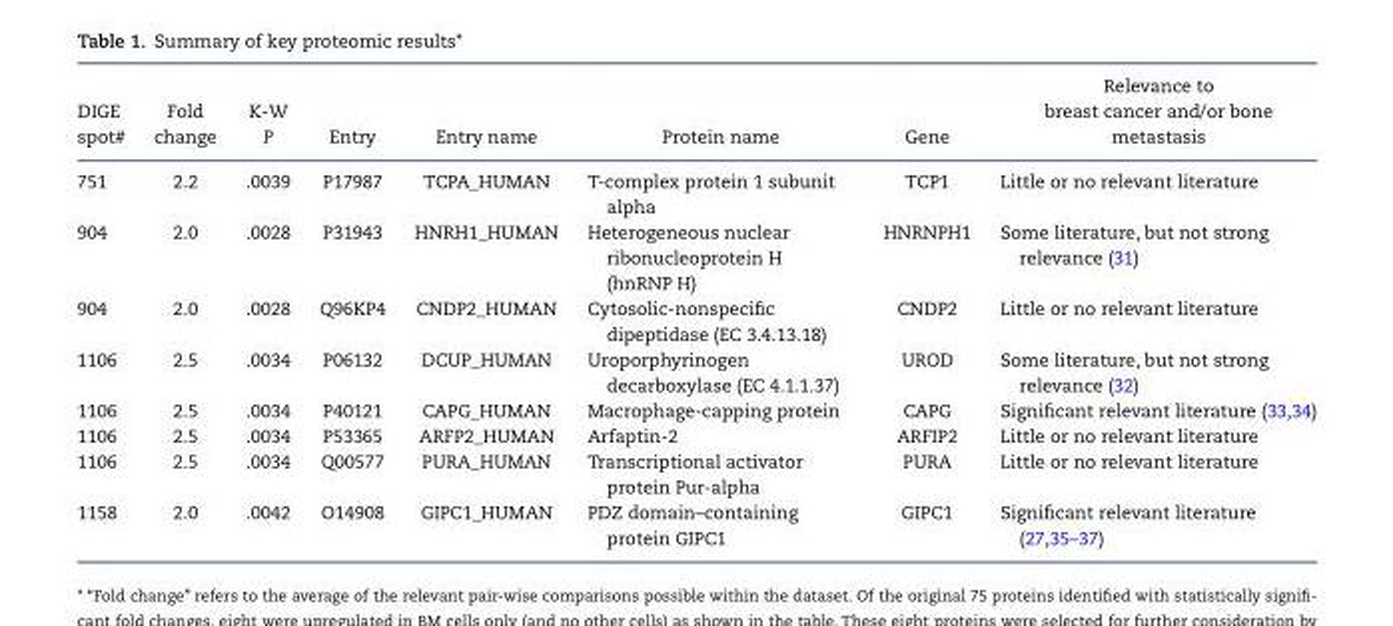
<table><thead><tr><td>DIGE spot#</td><td>Fold change</td><td>K-W P</td><td>Entry</td><td>Entry name</td><td>Protein name</td><td>Gene</td><td>Relevance to breast cancer and/or bone metastasis</td></tr></thead><tbody><tr><td>751</td><td>2.2</td><td>.0039</td><td>P17987</td><td>TCPA_HUMAN</td><td>T-complex protein 1 subunit alpha</td><td>TCP1</td><td>Little or no relevant literature</td></tr><tr><td>904</td><td>2.0</td><td>.0028</td><td>P31943</td><td>HNRH1_HUMAN</td><td>Heterogeneous nuclear ribonucleoprotein H (hnRNP H)</td><td>HNRNPH1</td><td>Some literature, but not strong relevance (31)</td></tr><tr><td>904</td><td>2.0</td><td>.0028</td><td>Q96KP4</td><td>CNDP2_HUMAN</td><td>Cytosolic-nonspecific dipeptidase (EC 3.4.13.18)</td><td>CNDP2</td><td>Little or no relevant literature</td></tr><tr><td>1106</td><td>2.5</td><td>.0034</td><td>P06132</td><td>DCUP_HUMAN</td><td>Uroporphyrinogen decarboxylase (EC 4.1.1.37)</td><td>UROD</td><td>Some literature, but not strong relevance (32)</td></tr><tr><td>1106</td><td>2.5</td><td>.0034</td><td>P40121</td><td>CAPG_HUMAN</td><td>Macrophage-capping protein</td><td>CAPG</td><td>Significant relevant literature (33,34)</td></tr><tr><td>1106</td><td>2.5</td><td>.0034</td><td>P53365</td><td>ARFP2_HUMAN</td><td>Arfaptin-2</td><td>ARFIP2</td><td>Little or no relevant literature</td></tr><tr><td>1106</td><td>2.5</td><td>.0034</td><td>Q00577</td><td>PURA_HUMAN</td><td>Transcriptional activator protein Pur-alpha</td><td>PURA</td><td>Little or no relevant literature</td></tr><tr><td>1158</td><td>2.0</td><td>.0042</td><td>O14908</td><td>GIPC1_HUMAN</td><td>PDZ domain–containing protein GIPC1</td><td>GIPC1</td><td>Significant relevant literature (27,35–37)</td></tr></tbody></table>